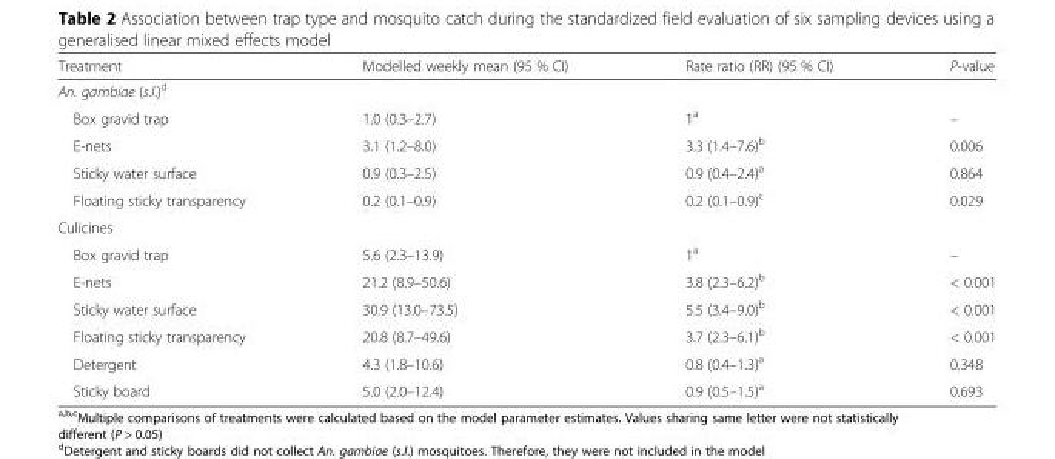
<table><thead><tr><td>Treatment</td><td>Modelled weekly mean (95 % CI)</td><td>Rate ratio (RR) (95 % CI)</td><td>P-value</td></tr></thead><tbody><tr><td colspan="4">An. gambiae (s.l.)<sup>d</sup></td></tr><tr><td>Box gravid trap</td><td>1.0 (0.3–2.7)</td><td>1<sup>a</sup></td><td>–</td></tr><tr><td>E-nets</td><td>3.1 (1.2–8.0)</td><td>3.3 (1.4–7.6)<sup>b</sup></td><td>0.006</td></tr><tr><td>Sticky water surface</td><td>0.9 (0.3–2.5)</td><td>0.9 (0.4–2.4)<sup>a</sup></td><td>0.864</td></tr><tr><td>Floating sticky transparency</td><td>0.2 (0.1–0.9)</td><td>0.2 (0.1–0.9)<sup>c</sup></td><td>0.029</td></tr><tr><td colspan="4">Culicines</td></tr><tr><td>Box gravid trap</td><td>5.6 (2.3–13.9)</td><td>1<sup>a</sup></td><td>–</td></tr><tr><td>E-nets</td><td>21.2 (8.9–50.6)</td><td>3.8 (2.3–6.2)<sup>b</sup></td><td>&lt; 0.001</td></tr><tr><td>Sticky water surface</td><td>30.9 (13.0–73.5)</td><td>5.5 (3.4–9.0)<sup>b</sup></td><td>&lt; 0.001</td></tr><tr><td>Floating sticky transparency</td><td>20.8 (8.7–49.6)</td><td>3.7 (2.3–6.1)<sup>b</sup></td><td>&lt; 0.001</td></tr><tr><td>Detergent</td><td>4.3 (1.8–10.6)</td><td>0.8 (0.4–1.3)<sup>a</sup></td><td>0.348</td></tr><tr><td>Sticky board</td><td>5.0 (2.0–12.4)</td><td>0.9 (0.5–1.5)<sup>a</sup></td><td>0.693</td></tr></tbody></table>